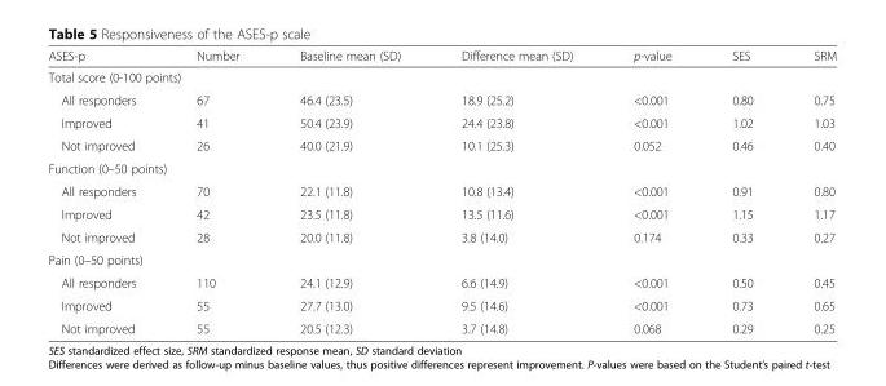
<table><thead><tr><td>ASES-p</td><td>Number</td><td>Baseline mean (SD)</td><td>Difference mean (SD)</td><td>p-value</td><td>SES</td><td>SRM</td></tr></thead><tbody><tr><td colspan="7">Total score (0-100 points)</td></tr><tr><td>All responders</td><td>67</td><td>46.4 (23.5)</td><td>18.9 (25.2)</td><td>&lt;0.001</td><td>0.80</td><td>0.75</td></tr><tr><td>Improved</td><td>41</td><td>50.4 (23.9)</td><td>24.4 (23.8)</td><td>&lt;0.001</td><td>1.02</td><td>1.03</td></tr><tr><td>Not improved</td><td>26</td><td>40.0 (21.9)</td><td>10.1 (25.3)</td><td>0.052</td><td>0.46</td><td>0.40</td></tr><tr><td colspan="7">Function (0–50 points)</td></tr><tr><td>All responders</td><td>70</td><td>22.1 (11.8)</td><td>10.8 (13.4)</td><td>&lt;0.001</td><td>0.91</td><td>0.80</td></tr><tr><td>Improved</td><td>42</td><td>23.5 (11.8)</td><td>13.5 (11.6)</td><td>&lt;0.001</td><td>1.15</td><td>1.17</td></tr><tr><td>Not improved</td><td>28</td><td>20.0 (11.8)</td><td>3.8 (14.0)</td><td>0.174</td><td>0.33</td><td>0.27</td></tr><tr><td colspan="7">Pain (0–50 points)</td></tr><tr><td>All responders</td><td>110</td><td>24.1 (12.9)</td><td>6.6 (14.9)</td><td>&lt;0.001</td><td>0.50</td><td>0.45</td></tr><tr><td>Improved</td><td>55</td><td>27.7 (13.0)</td><td>9.5 (14.6)</td><td>&lt;0.001</td><td>0.73</td><td>0.65</td></tr><tr><td>Not improved</td><td>55</td><td>20.5 (12.3)</td><td>3.7 (14.8)</td><td>0.068</td><td>0.29</td><td>0.25</td></tr></tbody></table>